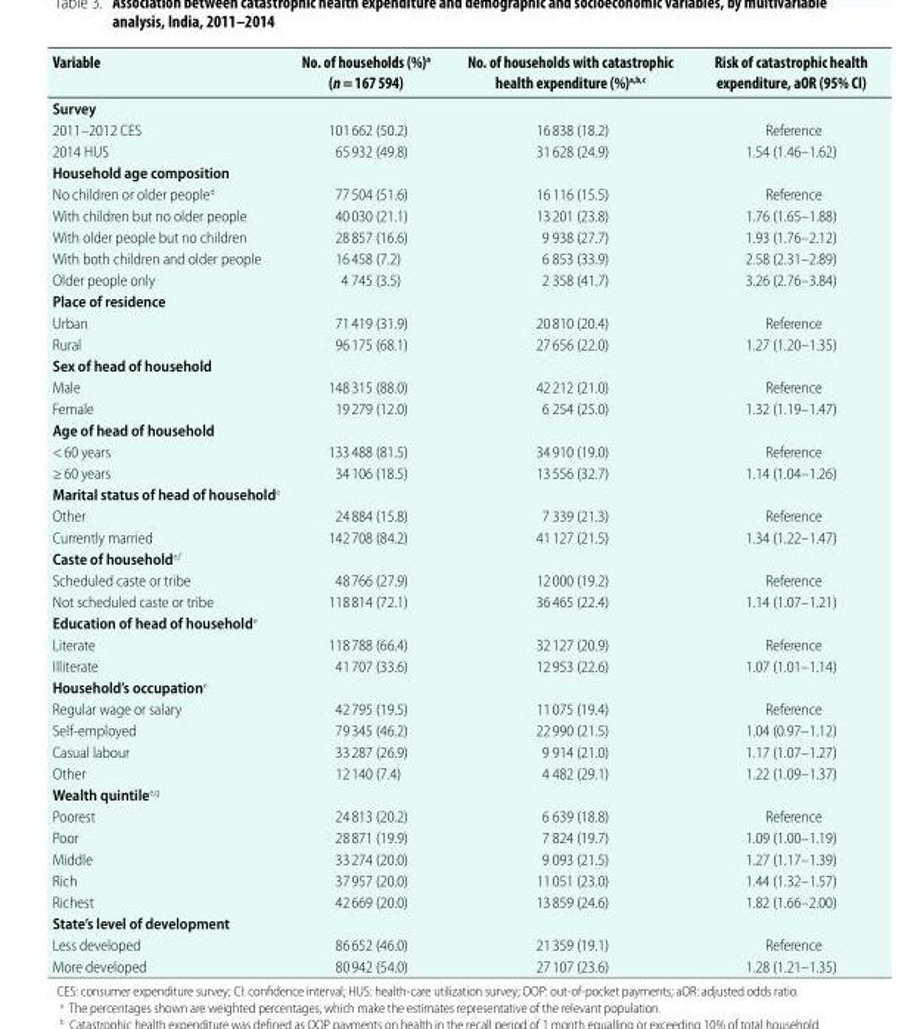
<table><thead><tr><td>Variable</td><td>No. of households (%)<sup>a</sup> (n = 167 594)</td><td>No. of households with catastrophic health expenditure (%)<sup>a,b,c</sup></td><td>Risk of catastrophic health expenditure, aOR (95% CI)</td></tr></thead><tbody><tr><td colspan="4">Survey</td></tr><tr><td>2011–2012 CES</td><td>101 662 (50.2)</td><td>16 838 (18.2)</td><td>Reference</td></tr><tr><td>2014 HUS</td><td>65 932 (49.8)</td><td>31 628 (24.9)</td><td>1.54 (1.46–1.62)</td></tr><tr><td colspan="4">Household age composition</td></tr><tr><td>No children or older people<sup>d</sup></td><td>77 504 (51.6)</td><td>16 116 (15.5)</td><td>Reference</td></tr><tr><td>With children but no older people</td><td>40 030 (21.1)</td><td>13 201 (23.8)</td><td>1.76 (1.65–1.88)</td></tr><tr><td>With older people but no children</td><td>28 857 (16.6)</td><td>9 938 (27.7)</td><td>1.93 (1.76–2.12)</td></tr><tr><td>With both children and older people</td><td>16 458 (7.2)</td><td>6 853 (33.9)</td><td>2.58 (2.31–2.89)</td></tr><tr><td>Older people only</td><td>4 745 (3.5)</td><td>2 358 (41.7)</td><td>3.26 (2.76–3.84)</td></tr><tr><td colspan="4">Place of residence</td></tr><tr><td>Urban</td><td>71 419 (31.9)</td><td>20 810 (20.4)</td><td>Reference</td></tr><tr><td>Rural</td><td>96 175 (68.1)</td><td>27 656 (22.0)</td><td>1.27 (1.20–1.35)</td></tr><tr><td colspan="4">Sex of head of household</td></tr><tr><td>Male</td><td>148 315 (88.0)</td><td>42 212 (21.0)</td><td>Reference</td></tr><tr><td>Female</td><td>19 279 (12.0)</td><td>6 254 (25.0)</td><td>1.32 (1.19–1.47)</td></tr><tr><td colspan="4">Age of head of household</td></tr><tr><td>&lt; 60 years</td><td>133 488 (81.5)</td><td>34 910 (19.0)</td><td>Reference</td></tr><tr><td>≥ 60 years</td><td>34 106 (18.5)</td><td>13 556 (32.7)</td><td>1.14 (1.04–1.26)</td></tr><tr><td colspan="4">Marital status of head of household<sup>e</sup></td></tr><tr><td>Other</td><td>24 884 (15.8)</td><td>7 339 (21.3)</td><td>Reference</td></tr><tr><td>Currently married</td><td>142 708 (84.2)</td><td>41 127 (21.5)</td><td>1.34 (1.22–1.47)</td></tr><tr><td colspan="4">Caste of household<sup>e,f</sup></td></tr><tr><td>Scheduled caste or tribe</td><td>48 766 (27.9)</td><td>12 000 (19.2)</td><td>Reference</td></tr><tr><td>Not scheduled caste or tribe</td><td>118 814 (72.1)</td><td>36 465 (22.4)</td><td>1.14 (1.07–1.21)</td></tr><tr><td colspan="4">Education of head of household<sup>e</sup></td></tr><tr><td>Literate</td><td>118 788 (66.4)</td><td>32 127 (20.9)</td><td>Reference</td></tr><tr><td>Illiterate</td><td>41 707 (33.6)</td><td>12 953 (22.6)</td><td>1.07 (1.01–1.14)</td></tr><tr><td colspan="4">Household’s occupation<sup>e</sup></td></tr><tr><td>Regular wage or salary</td><td>42 795 (19.5)</td><td>11 075 (19.4)</td><td>Reference</td></tr><tr><td>Self-employed</td><td>79 345 (46.2)</td><td>22 990 (21.5)</td><td>1.04 (0.97–1.12)</td></tr><tr><td>Casual labour</td><td>33 287 (26.9)</td><td>9 914 (21.0)</td><td>1.17 (1.07–1.27)</td></tr><tr><td>Other</td><td>12 140 (7.4)</td><td>4 482 (29.1)</td><td>1.22 (1.09–1.37)</td></tr><tr><td colspan="4">Wealth quintile<sup>e,g</sup></td></tr><tr><td>Poorest</td><td>24 813 (20.2)</td><td>6 639 (18.8)</td><td>Reference</td></tr><tr><td>Poor</td><td>28 871 (19.9)</td><td>7 824 (19.7)</td><td>1.09 (1.00–1.19)</td></tr><tr><td>Middle</td><td>33 274 (20.0)</td><td>9 093 (21.5)</td><td>1.27 (1.17–1.39)</td></tr><tr><td>Rich</td><td>37 957 (20.0)</td><td>11 051 (23.0)</td><td>1.44 (1.32–1.57)</td></tr><tr><td>Richest</td><td>42 669 (20.0)</td><td>13 859 (24.6)</td><td>1.82 (1.66–2.00)</td></tr><tr><td colspan="4">State’s level of development</td></tr><tr><td>Less developed</td><td>86 652 (46.0)</td><td>21 359 (19.1)</td><td>Reference</td></tr><tr><td>More developed</td><td>80 942 (54.0)</td><td>27 107 (23.6)</td><td>1.28 (1.21–1.35)</td></tr></tbody></table>